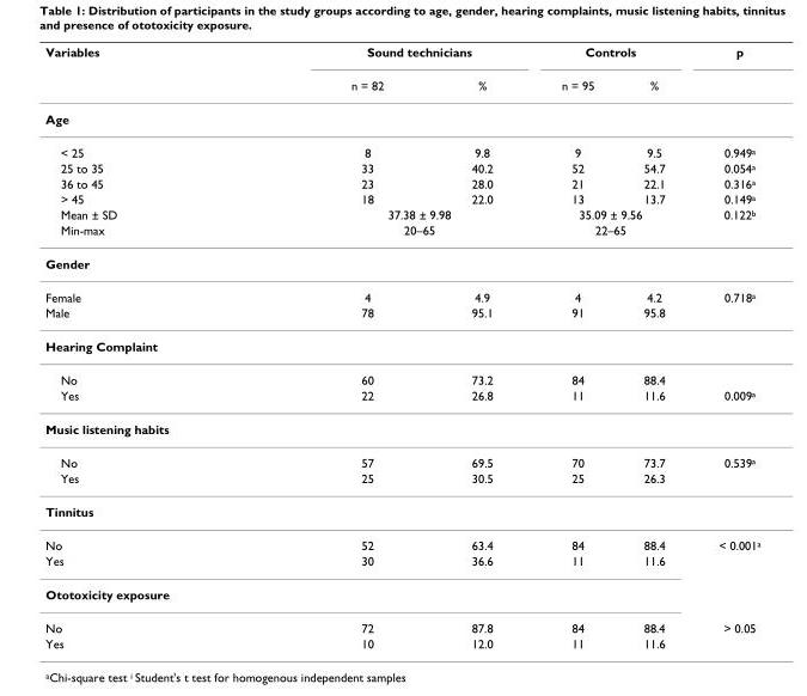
<table><thead><tr><td rowspan="2">Variables</td><td colspan="2">Sound technicians</td><td colspan="2">Controls</td><td rowspan="2">p</td></tr><tr><td>n = 82</td><td>%</td><td>n = 95</td><td>%</td></tr></thead><tbody><tr><td colspan="6">Age</td></tr><tr><td>&lt; 25</td><td>8</td><td>9.8</td><td>9</td><td>9.5</td><td>0.949<sup>a</sup></td></tr><tr><td>25 to 35</td><td>33</td><td>40.2</td><td>52</td><td>54.7</td><td>0.054<sup>a</sup></td></tr><tr><td>36 to 45</td><td>23</td><td>28.0</td><td>21</td><td>22.1</td><td>0.316<sup>a</sup></td></tr><tr><td>&gt; 45</td><td>18</td><td>22.0</td><td>13</td><td>13.7</td><td>0.149<sup>a</sup></td></tr><tr><td>Mean ± SD</td><td colspan="2">37.38 ± 9.98</td><td colspan="2">35.09 ± 9.56</td><td>0.122<sup>b</sup></td></tr><tr><td>Min-max</td><td colspan="2">20–65</td><td colspan="2">22–65</td><td></td></tr><tr><td colspan="6">Gender</td></tr><tr><td>Female</td><td>4</td><td>4.9</td><td>4</td><td>4.2</td><td>0.718<sup>a</sup></td></tr><tr><td>Male</td><td>78</td><td>95.1</td><td>91</td><td>95.8</td><td></td></tr><tr><td colspan="6">Hearing Complaint</td></tr><tr><td>No</td><td>60</td><td>73.2</td><td>84</td><td>88.4</td><td></td></tr><tr><td>Yes</td><td>22</td><td>26.8</td><td>11</td><td>11.6</td><td>0.009<sup>a</sup></td></tr><tr><td colspan="6">Music listening habits</td></tr><tr><td>No</td><td>57</td><td>69.5</td><td>70</td><td>73.7</td><td>0.539<sup>a</sup></td></tr><tr><td>Yes</td><td>25</td><td>30.5</td><td>25</td><td>26.3</td><td></td></tr><tr><td colspan="6">Tinnitus</td></tr><tr><td>No</td><td>52</td><td>63.4</td><td>84</td><td>88.4</td><td>&lt; 0.001<sup>a</sup></td></tr><tr><td>Yes</td><td>30</td><td>36.6</td><td>11</td><td>11.6</td><td></td></tr><tr><td colspan="6">Ototoxicity exposure</td></tr><tr><td>No</td><td>72</td><td>87.8</td><td>84</td><td>88.4</td><td>&gt; 0.05</td></tr><tr><td>Yes</td><td>10</td><td>12.0</td><td>11</td><td>11.6</td><td></td></tr></tbody></table>